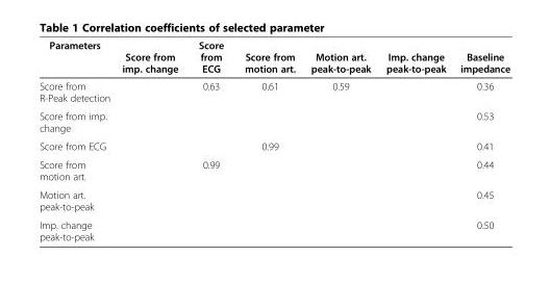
<table><thead><tr><td>Parameters</td><td>Score from imp. change</td><td>Score from ECG</td><td>Score from motion art.</td><td>Motion art. peak-to-peak</td><td>Imp. change peak-to-peak</td><td>Baseline impedance</td></tr></thead><tbody><tr><td>Score from R-Peak detection</td><td></td><td>0.63</td><td>0.61</td><td>0.59</td><td></td><td>0.36</td></tr><tr><td>Score from imp. change</td><td></td><td></td><td></td><td></td><td></td><td>0.53</td></tr><tr><td>Score from ECG</td><td></td><td></td><td>0.99</td><td></td><td></td><td>0.41</td></tr><tr><td>Score from motion art.</td><td></td><td>0.99</td><td></td><td></td><td></td><td>0.44</td></tr><tr><td>Motion art. peak-to-peak</td><td></td><td></td><td></td><td></td><td></td><td>0.45</td></tr><tr><td>Imp. change peak-to-peak</td><td></td><td></td><td></td><td></td><td></td><td>0.50</td></tr></tbody></table>